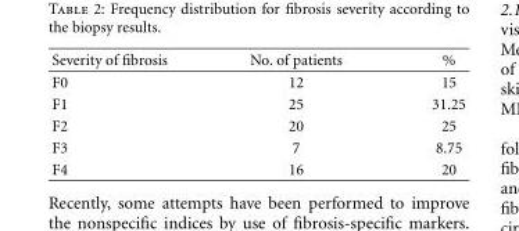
<table><thead><tr><td>Severity of fibrosis</td><td>No. of patients</td><td>%</td></tr></thead><tbody><tr><td>F0</td><td>12</td><td>15</td></tr><tr><td>F1</td><td>25</td><td>31.25</td></tr><tr><td>F2</td><td>20</td><td>25</td></tr><tr><td>F3</td><td>7</td><td>8.75</td></tr><tr><td>F4</td><td>16</td><td>20</td></tr></tbody></table>